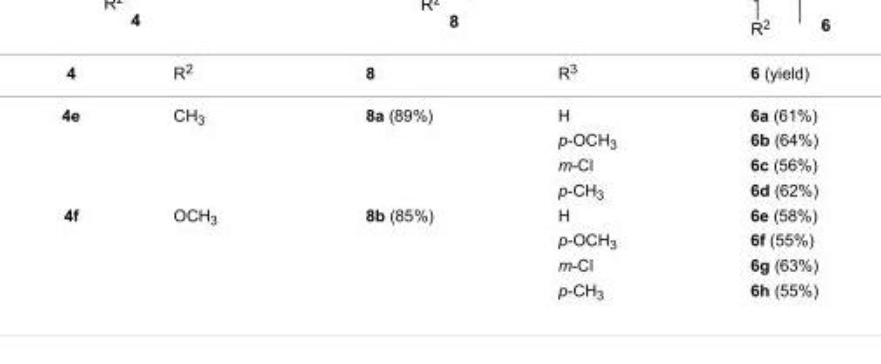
<table><tbody><tr><td>4</td><td>R<sup>2</sup></td><td>8</td><td>R<sup>3</sup></td><td>6 (yield)</td></tr><tr><td rowspan="4">4e</td><td>CH<sub>3</sub></td><td>8a (89%)</td><td>H</td><td>6a (61%)</td></tr><tr><td></td><td></td><td>p-OCH<sub>3</sub></td><td>6b (64%)</td></tr><tr><td></td><td></td><td>m-Cl</td><td>6c (56%)</td></tr><tr><td></td><td></td><td>p-CH<sub>3</sub></td><td>6d (62%)</td></tr><tr><td rowspan="4">4f</td><td>OCH<sub>3</sub></td><td>8b (85%)</td><td>H</td><td>6e (58%)</td></tr><tr><td></td><td></td><td>p-OCH<sub>3</sub></td><td>6f (55%)</td></tr><tr><td></td><td></td><td>m-Cl</td><td>6g (63%)</td></tr><tr><td></td><td></td><td>p-CH<sub>3</sub></td><td>6h (55%)</td></tr></tbody></table>